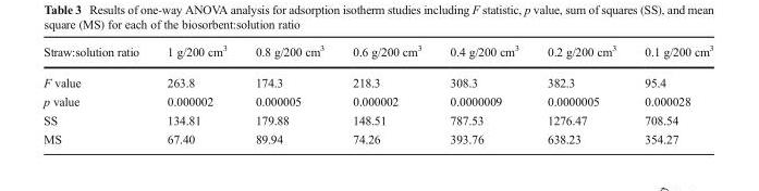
<table><thead><tr><td>Straw:solution ratio</td><td>1 g/200 cm<sup>3</sup></td><td>0.8 g/200 cm<sup>3</sup></td><td>0.6 g/200 cm<sup>3</sup></td><td>0.4 g/200 cm<sup>3</sup></td><td>0.2 g/200 cm<sup>3</sup></td><td>0.1 g/200 cm<sup>3</sup></td></tr></thead><tbody><tr><td>F value</td><td>263.8</td><td>174.3</td><td>218.3</td><td>308.3</td><td>382.3</td><td>95.4</td></tr><tr><td>p value</td><td>0.000002</td><td>0.000005</td><td>0.000002</td><td>0.0000009</td><td>0.0000005</td><td>0.000028</td></tr><tr><td>SS</td><td>134.81</td><td>179.88</td><td>148.51</td><td>787.53</td><td>1276.47</td><td>708.54</td></tr><tr><td>MS</td><td>67.40</td><td>89.94</td><td>74.26</td><td>393.76</td><td>638.23</td><td>354.27</td></tr></tbody></table>